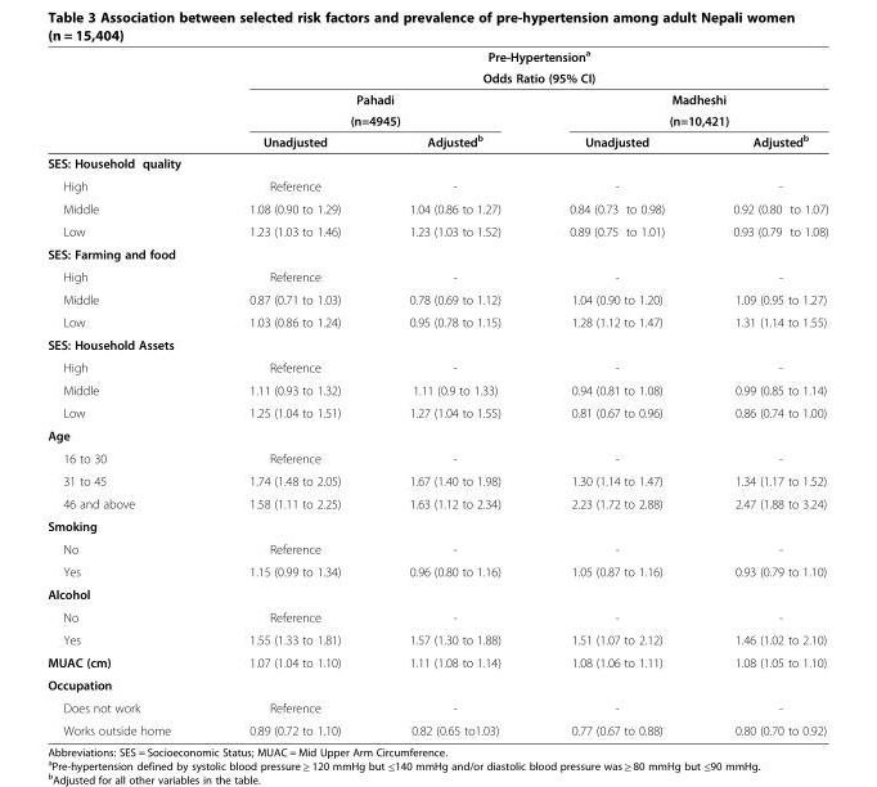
<table><thead><tr><td rowspan="5"></td><td rowspan="2" colspan="4">Pre-Hypertension<sup>a</sup> Odds Ratio (95% CI)</td></tr><tr></tr><tr><td rowspan="2" colspan="2">Pahadi (n=4945)</td><td rowspan="2" colspan="2">Madheshi (n=10,421)</td></tr><tr></tr><tr><td>Unadjusted</td><td>Adjusted<sup>b</sup></td><td>Unadjusted</td><td>Adjusted<sup>b</sup></td></tr></thead><tbody><tr><td colspan="5">SES: Household quality</td></tr><tr><td>High</td><td>Reference</td><td>-</td><td>-</td><td>-</td></tr><tr><td>Middle</td><td>1.08 (0.90 to 1.29)</td><td>1.04 (0.86 to 1.27)</td><td>0.84 (0.73 to 0.98)</td><td>0.92 (0.80 to 1.07)</td></tr><tr><td>Low</td><td>1.23 (1.03 to 1.46)</td><td>1.23 (1.03 to 1.52)</td><td>0.89 (0.75 to 1.01)</td><td>0.93 (0.79 to 1.08)</td></tr><tr><td colspan="5">SES: Farming and food</td></tr><tr><td>High</td><td>Reference</td><td>-</td><td>-</td><td>-</td></tr><tr><td>Middle</td><td>0.87 (0.71 to 1.03)</td><td>0.78 (0.69 to 1.12)</td><td>1.04 (0.90 to 1.20)</td><td>1.09 (0.95 to 1.27)</td></tr><tr><td>Low</td><td>1.03 (0.86 to 1.24)</td><td>0.95 (0.78 to 1.15)</td><td>1.28 (1.12 to 1.47)</td><td>1.31 (1.14 to 1.55)</td></tr><tr><td colspan="5">SES: Household Assets</td></tr><tr><td>High</td><td>Reference</td><td>-</td><td>-</td><td>-</td></tr><tr><td>Middle</td><td>1.11 (0.93 to 1.32)</td><td>1.11 (0.9 to 1.33)</td><td>0.94 (0.81 to 1.08)</td><td>0.99 (0.85 to 1.14)</td></tr><tr><td>Low</td><td>1.25 (1.04 to 1.51)</td><td>1.27 (1.04 to 1.55)</td><td>0.81 (0.67 to 0.96)</td><td>0.86 (0.74 to 1.00)</td></tr><tr><td colspan="5">Age</td></tr><tr><td>16 to 30</td><td>Reference</td><td>-</td><td>-</td><td>-</td></tr><tr><td>31 to 45</td><td>1.74 (1.48 to 2.05)</td><td>1.67 (1.40 to 1.98)</td><td>1.30 (1.14 to 1.47)</td><td>1.34 (1.17 to 1.52)</td></tr><tr><td>46 and above</td><td>1.58 (1.11 to 2.25)</td><td>1.63 (1.12 to 2.34)</td><td>2.23 (1.72 to 2.88)</td><td>2.47 (1.88 to 3.24)</td></tr><tr><td colspan="5">Smoking</td></tr><tr><td>No</td><td>Reference</td><td>-</td><td>-</td><td>-</td></tr><tr><td>Yes</td><td>1.15 (0.99 to 1.34)</td><td>0.96 (0.80 to 1.16)</td><td>1.05 (0.87 to 1.16)</td><td>0.93 (0.79 to 1.10)</td></tr><tr><td colspan="5">Alcohol</td></tr><tr><td>No</td><td>Reference</td><td>-</td><td>-</td><td>-</td></tr><tr><td>Yes</td><td>1.55 (1.33 to 1.81)</td><td>1.57 (1.30 to 1.88)</td><td>1.51 (1.07 to 2.12)</td><td>1.46 (1.02 to 2.10)</td></tr><tr><td>MUAC (cm)</td><td>1.07 (1.04 to 1.10)</td><td>1.11 (1.08 to 1.14)</td><td>1.08 (1.06 to 1.11)</td><td>1.08 (1.05 to 1.10)</td></tr><tr><td colspan="5">Occupation</td></tr><tr><td>Does not work</td><td>Reference</td><td>-</td><td>-</td><td>-</td></tr><tr><td>Works outside home</td><td>0.89 (0.72 to 1.10)</td><td>0.82 (0.65 to1.03)</td><td>0.77 (0.67 to 0.88)</td><td>0.80 (0.70 to 0.92)</td></tr></tbody></table>